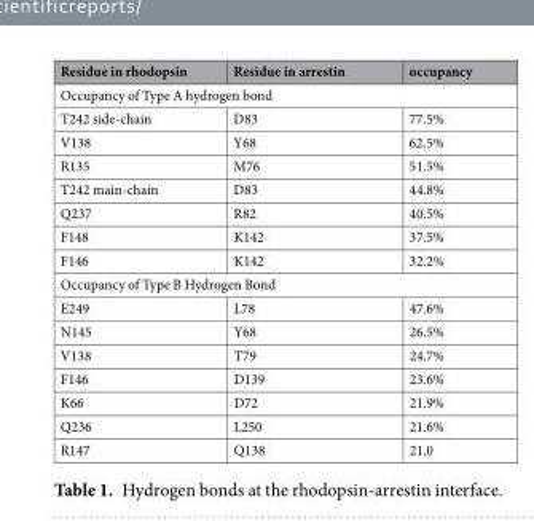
<table><thead><tr><td>Residue in rhodopsin</td><td>Residue in arrestin</td><td>occupancy</td></tr></thead><tbody><tr><td colspan="3">Occupancy of Type A hydrogen bond</td></tr><tr><td>T242 side-chain</td><td>D83</td><td>77.5%</td></tr><tr><td>V138</td><td>Y68</td><td>62.5%</td></tr><tr><td>R135</td><td>M76</td><td>51.5%</td></tr><tr><td>T242 main-chain</td><td>D83</td><td>44.8%</td></tr><tr><td>Q237</td><td>R82</td><td>40.5%</td></tr><tr><td>F148</td><td>K142</td><td>37.5%</td></tr><tr><td>F146</td><td>K142</td><td>32.2%</td></tr><tr><td colspan="3">Occupancy of Type B Hydrogen Bond</td></tr><tr><td>E249</td><td>L78</td><td>47.6%</td></tr><tr><td>N145</td><td>Y68</td><td>26.5%</td></tr><tr><td>V138</td><td>T79</td><td>24.7%</td></tr><tr><td>F146</td><td>D139</td><td>23.6%</td></tr><tr><td>K66</td><td>D72</td><td>21.9%</td></tr><tr><td>Q236</td><td>L250</td><td>21.6%</td></tr><tr><td>R147</td><td>Q138</td><td>21.0</td></tr></tbody></table>